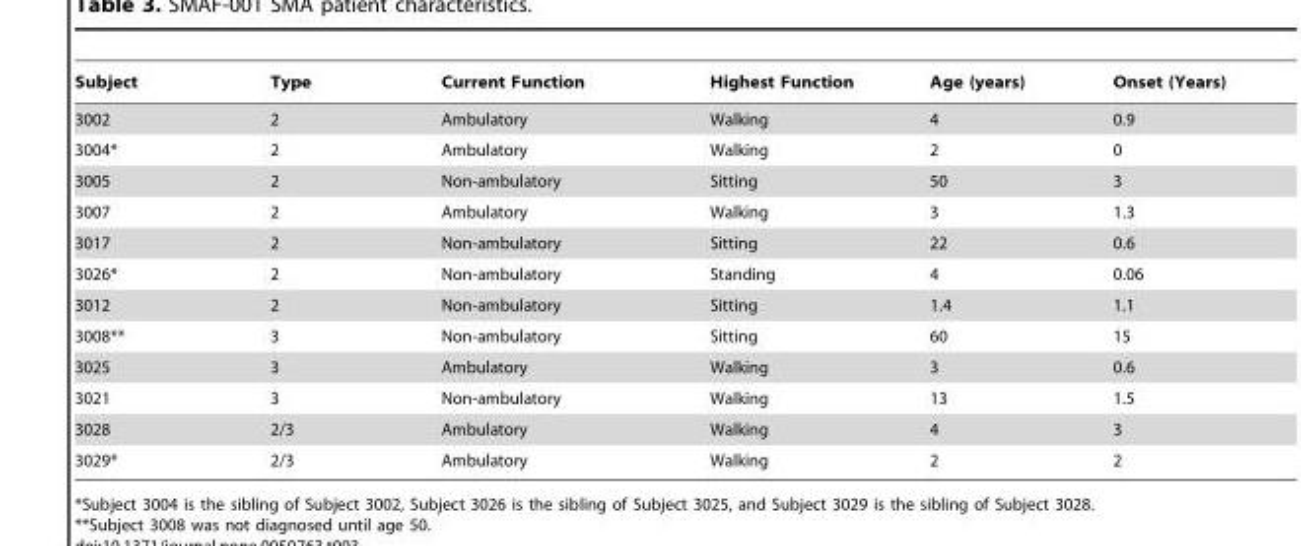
<table><thead><tr><td>Subject</td><td>Type</td><td>Current Function</td><td>Highest Function</td><td>Age (years)</td><td>Onset (Years)</td></tr></thead><tbody><tr><td>3002</td><td>2</td><td>Ambulatory</td><td>Walking</td><td>4</td><td>0.9</td></tr><tr><td>3004*</td><td>2</td><td>Ambulatory</td><td>Walking</td><td>2</td><td>0</td></tr><tr><td>3005</td><td>2</td><td>Non-ambulatory</td><td>Sitting</td><td>50</td><td>3</td></tr><tr><td>3007</td><td>2</td><td>Ambulatory</td><td>Walking</td><td>3</td><td>1.3</td></tr><tr><td>3017</td><td>2</td><td>Non-ambulatory</td><td>Sitting</td><td>22</td><td>0.6</td></tr><tr><td>3026*</td><td>2</td><td>Non-ambulatory</td><td>Standing</td><td>4</td><td>0.06</td></tr><tr><td>3012</td><td>2</td><td>Non-ambulatory</td><td>Sitting</td><td>1.4</td><td>1.1</td></tr><tr><td>3008**</td><td>3</td><td>Non-ambulatory</td><td>Sitting</td><td>60</td><td>15</td></tr><tr><td>3025</td><td>3</td><td>Ambulatory</td><td>Walking</td><td>3</td><td>0.6</td></tr><tr><td>3021</td><td>3</td><td>Non-ambulatory</td><td>Walking</td><td>13</td><td>1.5</td></tr><tr><td>3028</td><td>2/3</td><td>Ambulatory</td><td>Walking</td><td>4</td><td>3</td></tr><tr><td>3029*</td><td>2/3</td><td>Ambulatory</td><td>Walking</td><td>2</td><td>2</td></tr></tbody></table>